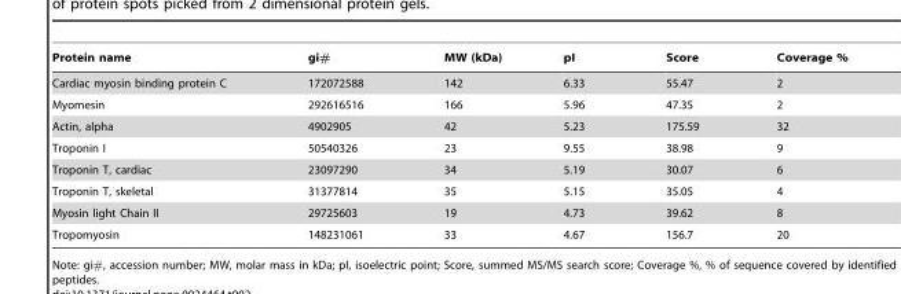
<table><thead><tr><td>Protein name</td><td>gi#</td><td>MW (kDa)</td><td>pI</td><td>Score</td><td>Coverage %</td></tr></thead><tbody><tr><td>Cardiac myosin binding protein C</td><td>172072588</td><td>142</td><td>6.33</td><td>55.47</td><td>2</td></tr><tr><td>Myomesin</td><td>292616516</td><td>166</td><td>5.96</td><td>47.35</td><td>2</td></tr><tr><td>Actin, alpha</td><td>4902905</td><td>42</td><td>5.23</td><td>175.59</td><td>32</td></tr><tr><td>Troponin I</td><td>50540326</td><td>23</td><td>9.55</td><td>38.98</td><td>9</td></tr><tr><td>Troponin T, cardiac</td><td>23097290</td><td>34</td><td>5.19</td><td>30.07</td><td>6</td></tr><tr><td>Troponin T, skeletal</td><td>31377814</td><td>35</td><td>5.15</td><td>35.05</td><td>4</td></tr><tr><td>Myosin light Chain II</td><td>29725603</td><td>19</td><td>4.73</td><td>39.62</td><td>8</td></tr><tr><td>Tropomyosin</td><td>148231061</td><td>33</td><td>4.67</td><td>156.7</td><td>20</td></tr></tbody></table>